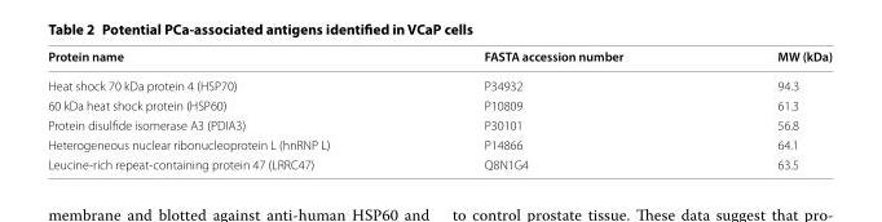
<table><thead><tr><td>Protein name</td><td>FASTA accession number</td><td>MW (kDa)</td></tr></thead><tbody><tr><td>Heat shock 70 kDa protein 4 (HSP70)</td><td>P34932</td><td>94.3</td></tr><tr><td>60 kDa heat shock protein (HSP60)</td><td>P10809</td><td>61.3</td></tr><tr><td>Protein disulfide isomerase A3 (PDIA3)</td><td>P30101</td><td>56.8</td></tr><tr><td>Heterogeneous nuclear ribonucleoprotein L (hnRNP L)</td><td>P14866</td><td>64.1</td></tr><tr><td>Leucine‑rich repeat‑containing protein 47 (LRRC47)</td><td>Q8N1G4</td><td>63.5</td></tr></tbody></table>